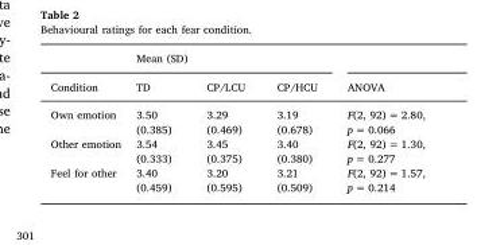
<table><thead><tr><td rowspan="2">Condition</td><td colspan="3">Mean (SD)</td><td rowspan="2">ANOVA</td></tr><tr><td>TD</td><td>CP/LCU</td><td>CP/HCU</td></tr></thead><tbody><tr><td>Own emotion</td><td>3.50 (0.385)</td><td>3.29 (0.469)</td><td>3.19 (0.678)</td><td>F(2, 92) = 2.80, p = 0.066</td></tr><tr><td>Other emotion</td><td>3.54 (0.333)</td><td>3.45 (0.375)</td><td>3.40 (0.380)</td><td>F(2, 92) = 1.30, p = 0.277</td></tr><tr><td>Feel for other</td><td>3.40 (0.459)</td><td>3.20 (0.595)</td><td>3.21 (0.509)</td><td>F(2, 92) = 1.57, p = 0.214</td></tr></tbody></table>